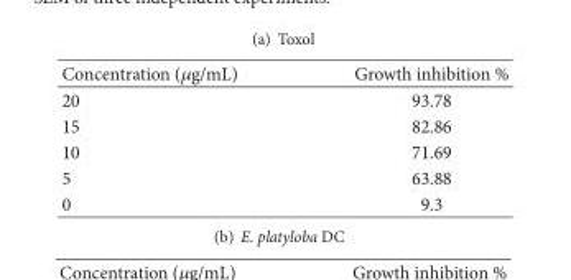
<table><thead><tr><td>Concentration (𝜇𝜇g/mL)</td><td>Growth inhibition %</td></tr></thead><tbody><tr><td>20</td><td>93.78</td></tr><tr><td>15</td><td>82.86</td></tr><tr><td>10</td><td>71.69</td></tr><tr><td>5</td><td>63.88</td></tr><tr><td>0</td><td>9.3</td></tr></tbody></table>